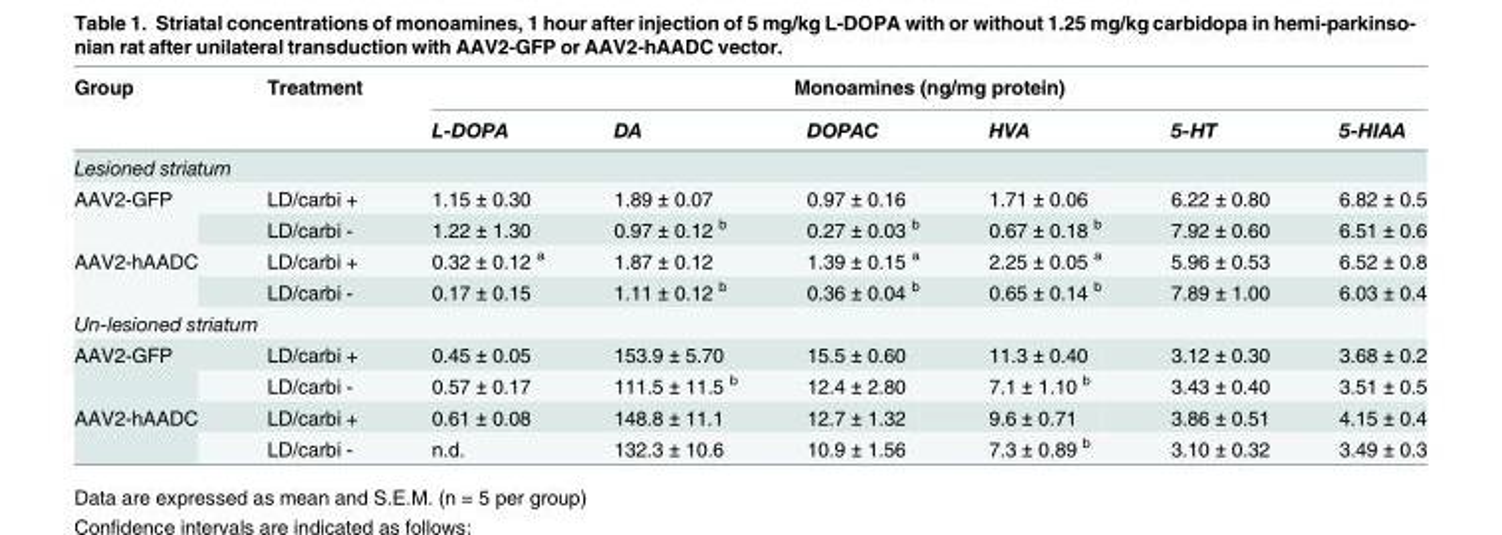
<table><thead><tr><td rowspan="2">Group</td><td rowspan="2">Treatment</td><td colspan="6">Monoamines (ng/mg protein)</td></tr><tr><td>L-DOPA</td><td>DA</td><td>DOPAC</td><td>HVA</td><td>5-HT</td><td>5-HIAA</td></tr></thead><tbody><tr><td colspan="8">Lesioned striatum</td></tr><tr><td rowspan="2">AAV2-GFP</td><td>LD/carbi +</td><td>1.15 ± 0.30</td><td>1.89 ± 0.07</td><td>0.97 ± 0.16</td><td>1.71 ± 0.06</td><td>6.22 ± 0.80</td><td>6.82 ± 0.5</td></tr><tr><td>LD/carbi -</td><td>1.22 ± 1.30</td><td>0.97 ± 0.12 <sup>b</sup></td><td>0.27 ± 0.03 <sup>b</sup></td><td>0.67 ± 0.18 <sup>b</sup></td><td>7.92 ± 0.60</td><td>6.51 ± 0.6</td></tr><tr><td rowspan="2">AAV2-hAADC</td><td>LD/carbi +</td><td>0.32 ± 0.12 <sup>a</sup></td><td>1.87 ± 0.12</td><td>1.39 ± 0.15 <sup>a</sup></td><td>2.25 ± 0.05 <sup>a</sup></td><td>5.96 ± 0.53</td><td>6.52 ± 0.8</td></tr><tr><td>LD/carbi -</td><td>0.17 ± 0.15</td><td>1.11 ± 0.12 <sup>b</sup></td><td>0.36 ± 0.04 <sup>b</sup></td><td>0.65 ± 0.14 <sup>b</sup></td><td>7.89 ± 1.00</td><td>6.03 ± 0.4</td></tr><tr><td colspan="8">Un-lesioned striatum</td></tr><tr><td rowspan="2">AAV2-GFP</td><td>LD/carbi +</td><td>0.45 ± 0.05</td><td>153.9 ± 5.70</td><td>15.5 ± 0.60</td><td>11.3 ± 0.40</td><td>3.12 ± 0.30</td><td>3.68 ± 0.2</td></tr><tr><td>LD/carbi -</td><td>0.57 ± 0.17</td><td>111.5 ± 11.5 <sup>b</sup></td><td>12.4 ± 2.80</td><td>7.1 ± 1.10 <sup>b</sup></td><td>3.43 ± 0.40</td><td>3.51 ± 0.5</td></tr><tr><td rowspan="2">AAV2-hAADC</td><td>LD/carbi +</td><td>0.61 ± 0.08</td><td>148.8 ± 11.1</td><td>12.7 ± 1.32</td><td>9.6 ± 0.71</td><td>3.86 ± 0.51</td><td>4.15 ± 0.4</td></tr><tr><td>LD/carbi -</td><td>n.d.</td><td>132.3 ± 10.6</td><td>10.9 ± 1.56</td><td>7.3 ± 0.89 <sup>b</sup></td><td>3.10 ± 0.32</td><td>3.49 ± 0.3</td></tr></tbody></table>